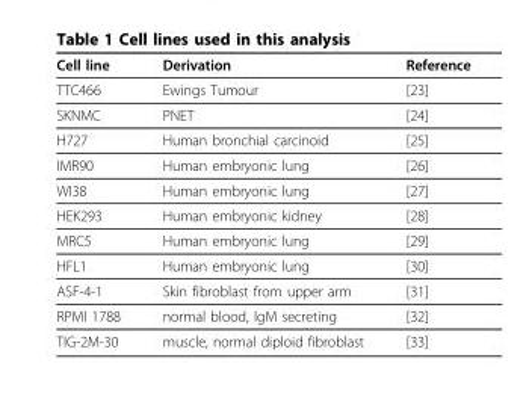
<table><thead><tr><td>Cell line</td><td>Derivation</td><td>Reference</td></tr></thead><tbody><tr><td>TTC466</td><td>Ewings Tumour</td><td>[23]</td></tr><tr><td>SKNMC</td><td>PNET</td><td>[24]</td></tr><tr><td>H727</td><td>Human bronchial carcinoid</td><td>[25]</td></tr><tr><td>IMR90</td><td>Human embryonic lung</td><td>[26]</td></tr><tr><td>WI38</td><td>Human embryonic lung</td><td>[27]</td></tr><tr><td>HEK293</td><td>Human embryonic kidney</td><td>[28]</td></tr><tr><td>MRC5</td><td>Human embryonic lung</td><td>[29]</td></tr><tr><td>HFL1</td><td>Human embryonic lung</td><td>[30]</td></tr><tr><td>ASF-4-1</td><td>Skin fibroblast from upper arm</td><td>[31]</td></tr><tr><td>RPMI 1788</td><td>normal blood, IgM secreting</td><td>[32]</td></tr><tr><td>TIG-2M-30</td><td>muscle, normal diploid fibroblast</td><td>[33]</td></tr></tbody></table>